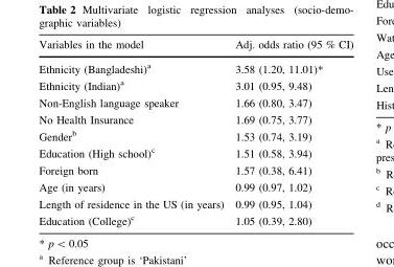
<table><thead><tr><td>Variables in the model</td><td>Adj. odds ratio (95 % CI)</td></tr></thead><tbody><tr><td>Ethnicity (Bangladeshi)<sup>a</sup></td><td>3.58 (1.20, 11.01)*</td></tr><tr><td>Ethnicity (Indian)<sup>a</sup></td><td>3.01 (0.95, 9.48)</td></tr><tr><td>Non-English language speaker</td><td>1.66 (0.80, 3.47)</td></tr><tr><td>No Health Insurance</td><td>1.69 (0.75, 3.77)</td></tr><tr><td>Gender<sup>b</sup></td><td>1.53 (0.74, 3.19)</td></tr><tr><td>Education (High school)<sup>c</sup></td><td>1.51 (0.58, 3.94)</td></tr><tr><td>Foreign born</td><td>1.57 (0.38, 6.41)</td></tr><tr><td>Age (in years)</td><td>0.99 (0.97, 1.02)</td></tr><tr><td>Length of residence in the US (in years)</td><td>0.99 (0.95, 1.04)</td></tr><tr><td>Education (College)<sup>c</sup></td><td>1.05 (0.39, 2.80)</td></tr></tbody></table>